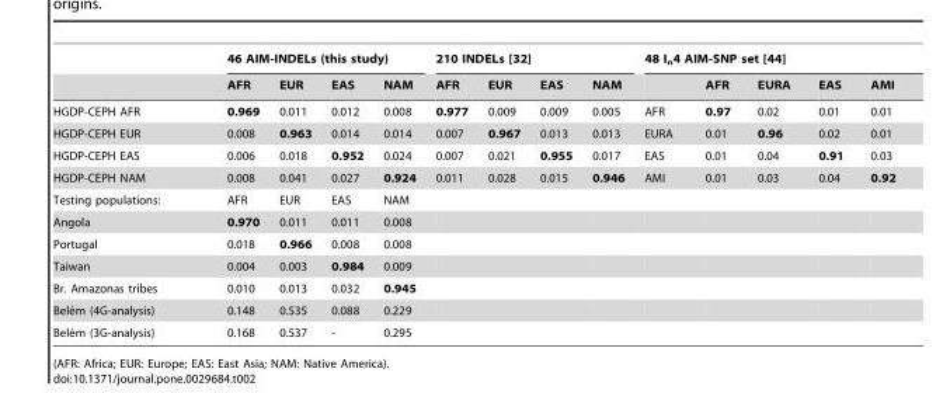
<table><thead><tr><td rowspan="2"></td><td colspan="4">46 AIM-INDELs (this study)</td><td colspan="4">210 INDELs [32]</td><td colspan="5">48 I<sub>n</sub>4 AIM-SNP set [44]</td></tr><tr><td>AFR</td><td>EUR</td><td>EAS</td><td>NAM</td><td>AFR</td><td>EUR</td><td>EAS</td><td>NAM</td><td></td><td>AFR</td><td>EURA</td><td>EAS</td><td>AMI</td></tr></thead><tbody><tr><td>HGDP-CEPH AFR</td><td>0.969</td><td>0.011</td><td>0.012</td><td>0.008</td><td>0.977</td><td>0.009</td><td>0.009</td><td>0.005</td><td>AFR</td><td>0.97</td><td>0.02</td><td>0.01</td><td>0.01</td></tr><tr><td>HGDP-CEPH EUR</td><td>0.008</td><td>0.963</td><td>0.014</td><td>0.014</td><td>0.007</td><td>0.967</td><td>0.013</td><td>0.013</td><td>EURA</td><td>0.01</td><td>0.96</td><td>0.02</td><td>0.01</td></tr><tr><td>HGDP-CEPH EAS</td><td>0.006</td><td>0.018</td><td>0.952</td><td>0.024</td><td>0.007</td><td>0.021</td><td>0.955</td><td>0.017</td><td>EAS</td><td>0.01</td><td>0.04</td><td>0.91</td><td>0.03</td></tr><tr><td>HGDP-CEPH NAM</td><td>0.008</td><td>0.041</td><td>0.027</td><td>0.924</td><td>0.011</td><td>0.028</td><td>0.015</td><td>0.946</td><td>AMI</td><td>0.01</td><td>0.03</td><td>0.04</td><td>0.92</td></tr><tr><td>Testing populations:</td><td>AFR</td><td>EUR</td><td>EAS</td><td>NAM</td><td></td><td></td><td></td><td></td><td></td><td></td><td></td><td></td><td></td></tr><tr><td>Angola</td><td>0.970</td><td>0.011</td><td>0.011</td><td>0.008</td><td></td><td></td><td></td><td></td><td></td><td></td><td></td><td></td><td></td></tr><tr><td>Portugal</td><td>0.018</td><td>0.966</td><td>0.008</td><td>0.008</td><td></td><td></td><td></td><td></td><td></td><td></td><td></td><td></td><td></td></tr><tr><td>Taiwan</td><td>0.004</td><td>0.003</td><td>0.984</td><td>0.009</td><td></td><td></td><td></td><td></td><td></td><td></td><td></td><td></td><td></td></tr><tr><td>Br. Amazonas tribes</td><td>0.010</td><td>0.013</td><td>0.032</td><td>0.945</td><td></td><td></td><td></td><td></td><td></td><td></td><td></td><td></td><td></td></tr><tr><td>Bele´m (4G-analysis)</td><td>0.148</td><td>0.535</td><td>0.088</td><td>0.229</td><td></td><td></td><td></td><td></td><td></td><td></td><td></td><td></td><td></td></tr><tr><td>Bele´m (3G-analysis)</td><td>0.168</td><td>0.537</td><td>-</td><td>0.295</td><td></td><td></td><td></td><td></td><td></td><td></td><td></td><td></td><td></td></tr></tbody></table>